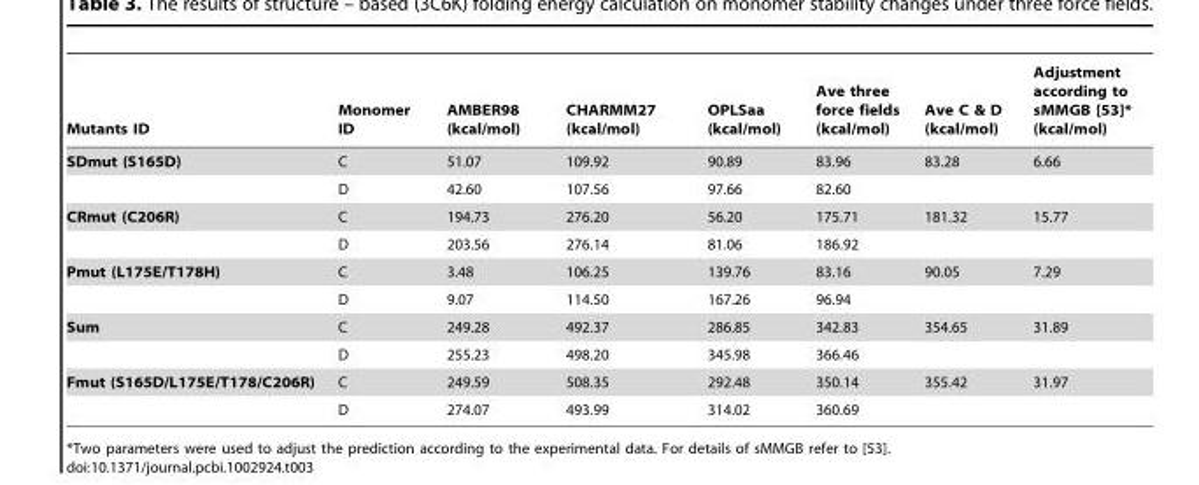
<table><thead><tr><td>Mutants ID</td><td>Monomer ID</td><td>AMBER98 (kcal/mol)</td><td>CHARMM27 (kcal/mol)</td><td>OPLSaa (kcal/mol)</td><td>Ave three force fields (kcal/mol)</td><td>Ave C &amp; D (kcal/mol)</td><td>Adjustment according to sMMGB [53]* (kcal/mol)</td></tr></thead><tbody><tr><td rowspan="2">SDmut (S165D)</td><td>C</td><td>51.07</td><td>109.92</td><td>90.89</td><td>83.96</td><td>83.28</td><td>6.66</td></tr><tr><td>D</td><td>42.60</td><td>107.56</td><td>97.66</td><td>82.60</td><td></td><td></td></tr><tr><td rowspan="2">CRmut (C206R)</td><td>C</td><td>194.73</td><td>276.20</td><td>56.20</td><td>175.71</td><td>181.32</td><td>15.77</td></tr><tr><td>D</td><td>203.56</td><td>276.14</td><td>81.06</td><td>186.92</td><td></td><td></td></tr><tr><td rowspan="2">Pmut (L175E/T178H)</td><td>C</td><td>3.48</td><td>106.25</td><td>139.76</td><td>83.16</td><td>90.05</td><td>7.29</td></tr><tr><td>D</td><td>9.07</td><td>114.50</td><td>167.26</td><td>96.94</td><td></td><td></td></tr><tr><td rowspan="2">Sum</td><td>C</td><td>249.28</td><td>492.37</td><td>286.85</td><td>342.83</td><td>354.65</td><td>31.89</td></tr><tr><td>D</td><td>255.23</td><td>498.20</td><td>345.98</td><td>366.46</td><td></td><td></td></tr><tr><td rowspan="2">Fmut (S165D/L175E/T178/C206R)</td><td>C</td><td>249.59</td><td>508.35</td><td>292.48</td><td>350.14</td><td>355.42</td><td>31.97</td></tr><tr><td>D</td><td>274.07</td><td>493.99</td><td>314.02</td><td>360.69</td><td></td><td></td></tr></tbody></table>